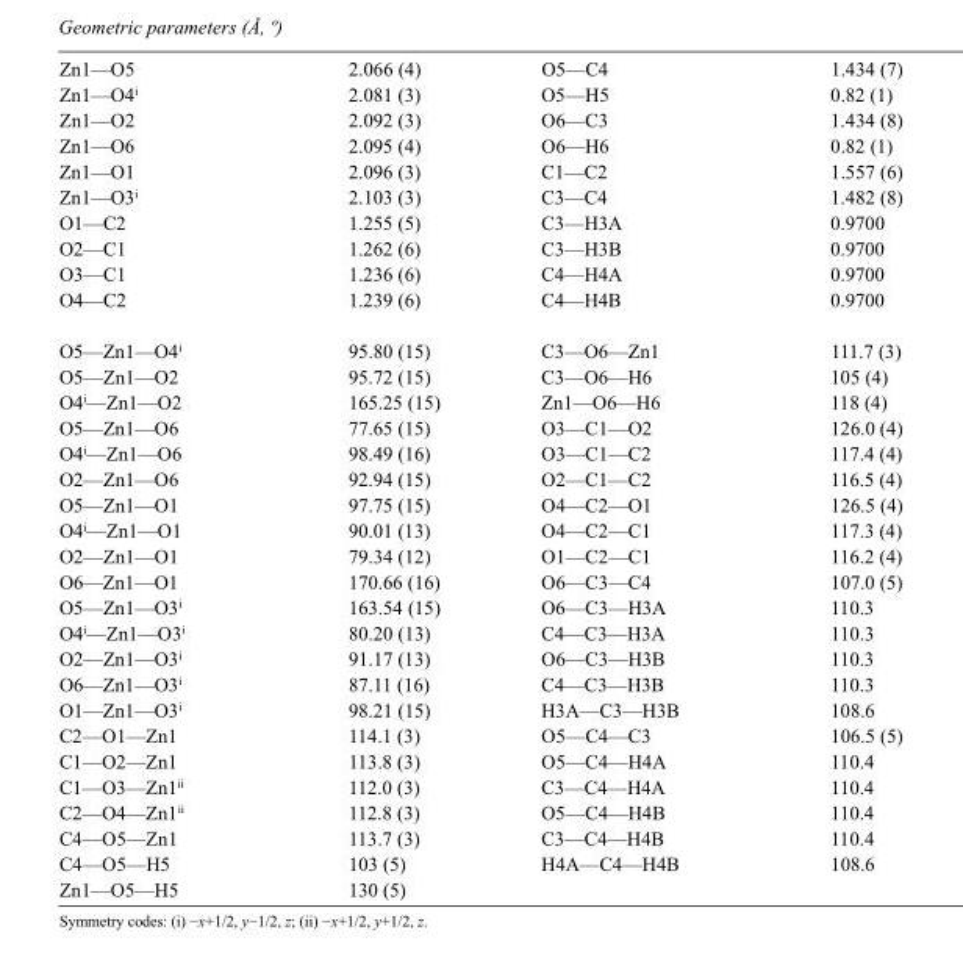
<table><tbody><tr><td>Zn1—O5</td><td>2.066 (4)</td><td>O5—C4</td><td>1.434 (7)</td></tr><tr><td>Zn1—O4<sup>i</sup></td><td>2.081 (3)</td><td>O5—H5</td><td>0.82 (1)</td></tr><tr><td>Zn1—O2</td><td>2.092 (3)</td><td>O6—C3</td><td>1.434 (8)</td></tr><tr><td>Zn1—O6</td><td>2.095 (4)</td><td>O6—H6</td><td>0.82 (1)</td></tr><tr><td>Zn1—O1</td><td>2.096 (3)</td><td>C1—C2</td><td>1.557 (6)</td></tr><tr><td>Zn1—O3<sup>i</sup></td><td>2.103 (3)</td><td>C3—C4</td><td>1.482 (8)</td></tr><tr><td>O1—C2</td><td>1.255 (5)</td><td>C3—H3A</td><td>0.9700</td></tr><tr><td>O2—C1</td><td>1.262 (6)</td><td>C3—H3B</td><td>0.9700</td></tr><tr><td>O3—C1</td><td>1.236 (6)</td><td>C4—H4A</td><td>0.9700</td></tr><tr><td>O4—C2</td><td>1.239 (6)</td><td>C4—H4B</td><td>0.9700</td></tr><tr><td>O5—Zn1—O4<sup>i</sup></td><td>95.80 (15)</td><td>C3—O6—Zn1</td><td>111.7 (3)</td></tr><tr><td>O5—Zn1—O2</td><td>95.72 (15)</td><td>C3—O6—H6</td><td>105 (4)</td></tr><tr><td>O4<sup>i</sup>—Zn1—O2</td><td>165.25 (15)</td><td>Zn1—O6—H6</td><td>118 (4)</td></tr><tr><td>O5—Zn1—O6</td><td>77.65 (15)</td><td>O3—C1—O2</td><td>126.0 (4)</td></tr><tr><td>O4<sup>i</sup>—Zn1—O6</td><td>98.49 (16)</td><td>O3—C1—C2</td><td>117.4 (4)</td></tr><tr><td>O2—Zn1—O6</td><td>92.94 (15)</td><td>O2—C1—C2</td><td>116.5 (4)</td></tr><tr><td>O5—Zn1—O1</td><td>97.75 (15)</td><td>O4—C2—O1</td><td>126.5 (4)</td></tr><tr><td>O4<sup>i</sup>—Zn1—O1</td><td>90.01 (13)</td><td>O4—C2—C1</td><td>117.3 (4)</td></tr><tr><td>O2—Zn1—O1</td><td>79.34 (12)</td><td>O1—C2—C1</td><td>116.2 (4)</td></tr><tr><td>O6—Zn1—O1</td><td>170.66 (16)</td><td>O6—C3—C4</td><td>107.0 (5)</td></tr><tr><td>O5—Zn1—O3<sup>i</sup></td><td>163.54 (15)</td><td>O6—C3—H3A</td><td>110.3</td></tr><tr><td>O4<sup>i</sup>—Zn1—O3<sup>i</sup></td><td>80.20 (13)</td><td>C4—C3—H3A</td><td>110.3</td></tr><tr><td>O2—Zn1—O3<sup>i</sup></td><td>91.17 (13)</td><td>O6—C3—H3B</td><td>110.3</td></tr><tr><td>O6—Zn1—O3<sup>i</sup></td><td>87.11 (16)</td><td>C4—C3—H3B</td><td>110.3</td></tr><tr><td>O1—Zn1—O3<sup>i</sup></td><td>98.21 (15)</td><td>H3A—C3—H3B</td><td>108.6</td></tr><tr><td>C2—O1—Zn1</td><td>114.1 (3)</td><td>O5—C4—C3</td><td>106.5 (5)</td></tr><tr><td>C1—O2—Zn1</td><td>113.8 (3)</td><td>O5—C4—H4A</td><td>110.4</td></tr><tr><td>C1—O3—Zn1<sup>ii</sup></td><td>112.0 (3)</td><td>C3—C4—H4A</td><td>110.4</td></tr><tr><td>C2—O4—Zn1<sup>ii</sup></td><td>112.8 (3)</td><td>O5—C4—H4B</td><td>110.4</td></tr><tr><td>C4—O5—Zn1</td><td>113.7 (3)</td><td>C3—C4—H4B</td><td>110.4</td></tr><tr><td>C4—O5—H5</td><td>103 (5)</td><td>H4A—C4—H4B</td><td>108.6</td></tr><tr><td>Zn1—O5—H5</td><td>130 (5)</td><td></td><td></td></tr></tbody></table>